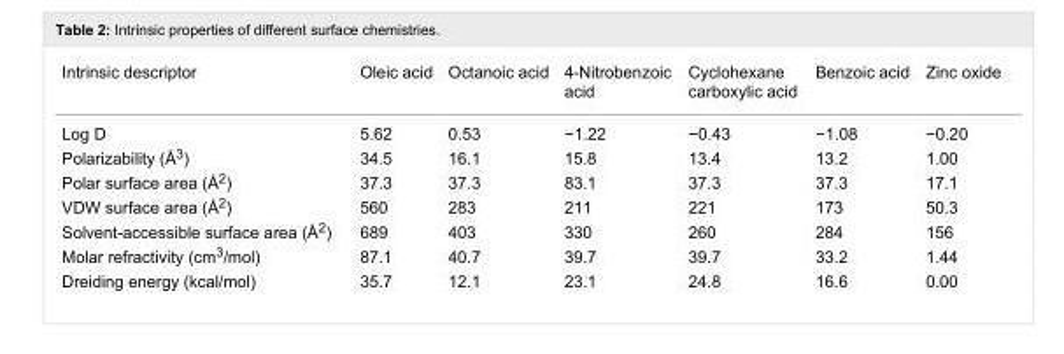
<table><tbody><tr><td>Intrinsic descriptor</td><td>Oleic acid</td><td>Octanoic acid</td><td>4-Nitrobenzoic acid</td><td>Cyclohexane carboxylic acid</td><td>Benzoic acid</td><td>Zinc oxide</td></tr><tr><td>Log D</td><td>5.62</td><td>0.53</td><td>−1.22</td><td>−0.43</td><td>−1.08</td><td>−0.20</td></tr><tr><td>Polarizability (Å<sup>3</sup>)</td><td>34.5</td><td>16.1</td><td>15.8</td><td>13.4</td><td>13.2</td><td>1.00</td></tr><tr><td>Polar surface area (Å<sup>2</sup>)</td><td>37.3</td><td>37.3</td><td>83.1</td><td>37.3</td><td>37.3</td><td>17.1</td></tr><tr><td>VDW surface area (Å<sup>2</sup>)</td><td>560</td><td>283</td><td>211</td><td>221</td><td>173</td><td>50.3</td></tr><tr><td>Solvent-accessible surface area (Å<sup>2</sup>)</td><td>689</td><td>403</td><td>330</td><td>260</td><td>284</td><td>156</td></tr><tr><td>Molar refractivity (cm<sup>3</sup>/mol)</td><td>87.1</td><td>40.7</td><td>39.7</td><td>39.7</td><td>33.2</td><td>1.44</td></tr><tr><td>Dreiding energy (kcal/mol)</td><td>35.7</td><td>12.1</td><td>23.1</td><td>24.8</td><td>16.6</td><td>0.00</td></tr></tbody></table>